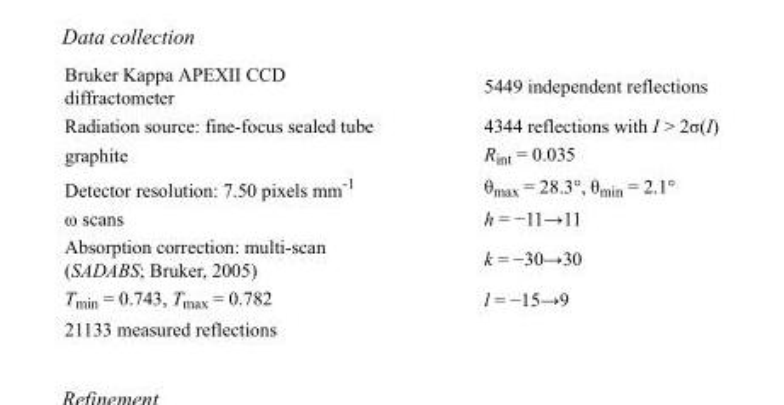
<table><tbody><tr><td>Bruker Kappa APEXII CCD diffractometer</td><td>5449 independent reflections</td></tr><tr><td>Radiation source: fine-focus sealed tube</td><td>4344 reflections with I &gt; 2σ(I)</td></tr><tr><td>graphite</td><td>R<sub>int</sub> = 0.035</td></tr><tr><td>Detector resolution: 7.50 pixels mm<sup>-1</sup></td><td>θ<sub>max</sub> = 28.3°, θ<sub>min</sub> = 2.1°</td></tr><tr><td>ω scans</td><td>h = −11→11</td></tr><tr><td>Absorption correction: multi-scan (SADABS; Bruker, 2005)</td><td>k = −30→30</td></tr><tr><td>T<sub>min</sub> = 0.743, T<sub>max</sub> = 0.782</td><td>l = −15→9</td></tr><tr><td>21133 measured reflections</td><td></td></tr></tbody></table>